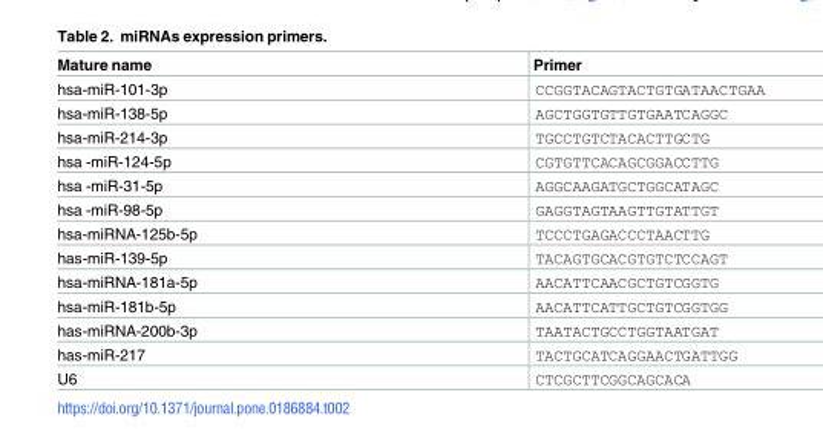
<table><thead><tr><td>Mature name</td><td>Primer</td></tr></thead><tbody><tr><td>hsa-miR-101-3p</td><td>CCGGTACAGTACTGTGATAACTGAA</td></tr><tr><td>hsa-miR-138-5p</td><td>AGCTGGTGTTGTGAATCAGGC</td></tr><tr><td>hsa-miR-214-3p</td><td>TGCCTGTCTACACTTGCTG</td></tr><tr><td>hsa -miR-124-5p</td><td>CGTGTTCACAGCGGACCTTG</td></tr><tr><td>hsa -miR-31-5p</td><td>AGGCAAGATGCTGGCATAGC</td></tr><tr><td>hsa -miR-98-5p</td><td>GAGGTAGTAAGTTGTATTGT</td></tr><tr><td>hsa-miRNA-125b-5p</td><td>TCCCTGAGACCCTAACTTG</td></tr><tr><td>has-miR-139-5p</td><td>TACAGTGCACGTGTCTCCAGT</td></tr><tr><td>hsa-miRNA-181a-5p</td><td>AACATTCAACGCTGTCGGTG</td></tr><tr><td>hsa-miR-181b-5p</td><td>AACATTCATTGCTGTCGGTGG</td></tr><tr><td>has-miRNA-200b-3p</td><td>TAATACTGCCTGGTAATGAT</td></tr><tr><td>has-miR-217</td><td>TACTGCATCAGGAACTGATTGG</td></tr><tr><td>U6</td><td>CTCGCTTCGGCAGCACA</td></tr></tbody></table>